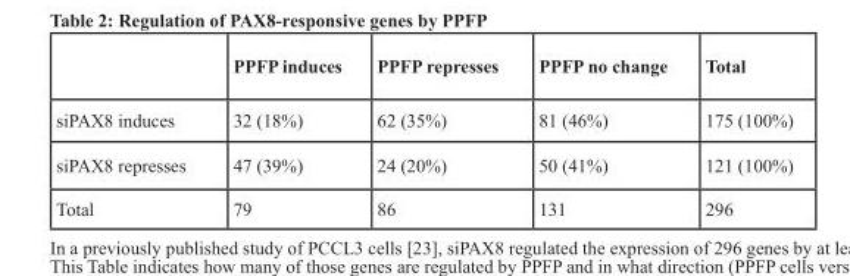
<table><thead><tr><td></td><td>PPFP induces</td><td>PPFP represses</td><td>PPFP no change</td><td>Total</td></tr></thead><tbody><tr><td>siPAX8 induces</td><td>32 (18%)</td><td>62 (35%)</td><td>81 (46%)</td><td>175 (100%)</td></tr><tr><td>siPAX8 represses</td><td>47 (39%)</td><td>24 (20%)</td><td>50 (41%)</td><td>121 (100%)</td></tr><tr><td>Total</td><td>79</td><td>86</td><td>131</td><td>296</td></tr></tbody></table>